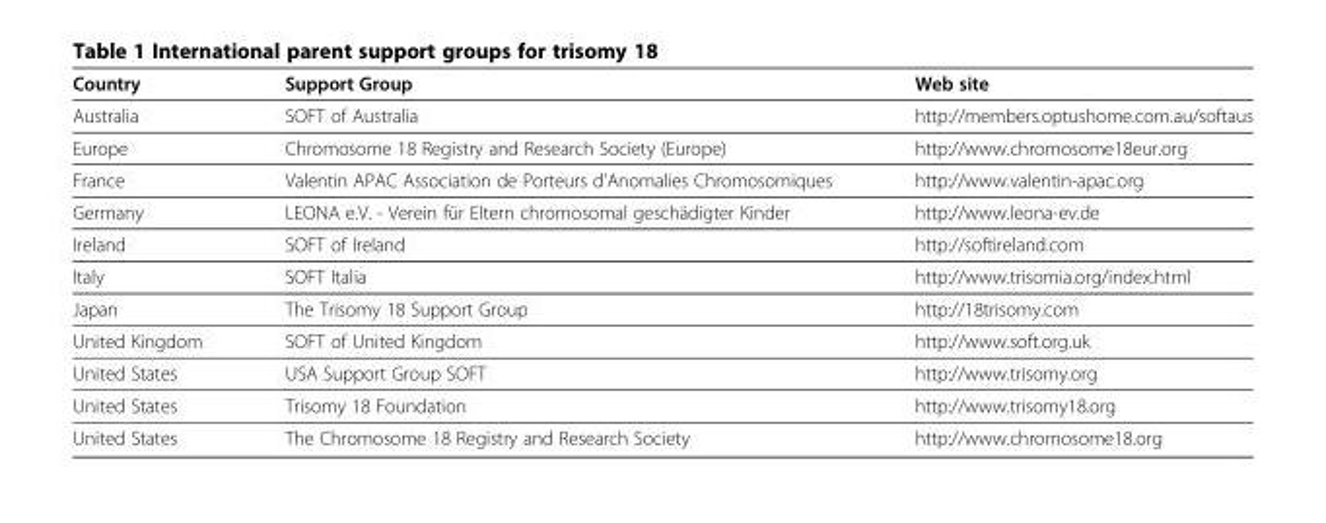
<table><thead><tr><td>Country</td><td>Support Group</td><td>Web site</td></tr></thead><tbody><tr><td>Australia</td><td>SOFT of Australia</td><td>http://members.optushome.com.au/softaus</td></tr><tr><td>Europe</td><td>Chromosome 18 Registry and Research Society (Europe)</td><td>http://www.chromosome18eur.org</td></tr><tr><td>France</td><td>Valentin APAC Association de Porteurs d&#x27;Anomalies Chromosomiques</td><td>http://www.valentin-apac.org</td></tr><tr><td>Germany</td><td>LEONA e.V. - Verein für Eltern chromosomal geschädigter Kinder</td><td>http://www.leona-ev.de</td></tr><tr><td>Ireland</td><td>SOFT of Ireland</td><td>http://softireland.com</td></tr><tr><td>Italy</td><td>SOFT Italia</td><td>http://www.trisomia.org/index.html</td></tr><tr><td>Japan</td><td>The Trisomy 18 Support Group</td><td>http://18trisomy.com</td></tr><tr><td>United Kingdom</td><td>SOFT of United Kingdom</td><td>http://www.soft.org.uk</td></tr><tr><td>United States</td><td>USA Support Group SOFT</td><td>http://www.trisomy.org</td></tr><tr><td>United States</td><td>Trisomy 18 Foundation</td><td>http://www.trisomy18.org</td></tr><tr><td>United States</td><td>The Chromosome 18 Registry and Research Society</td><td>http://www.chromosome18.org</td></tr></tbody></table>